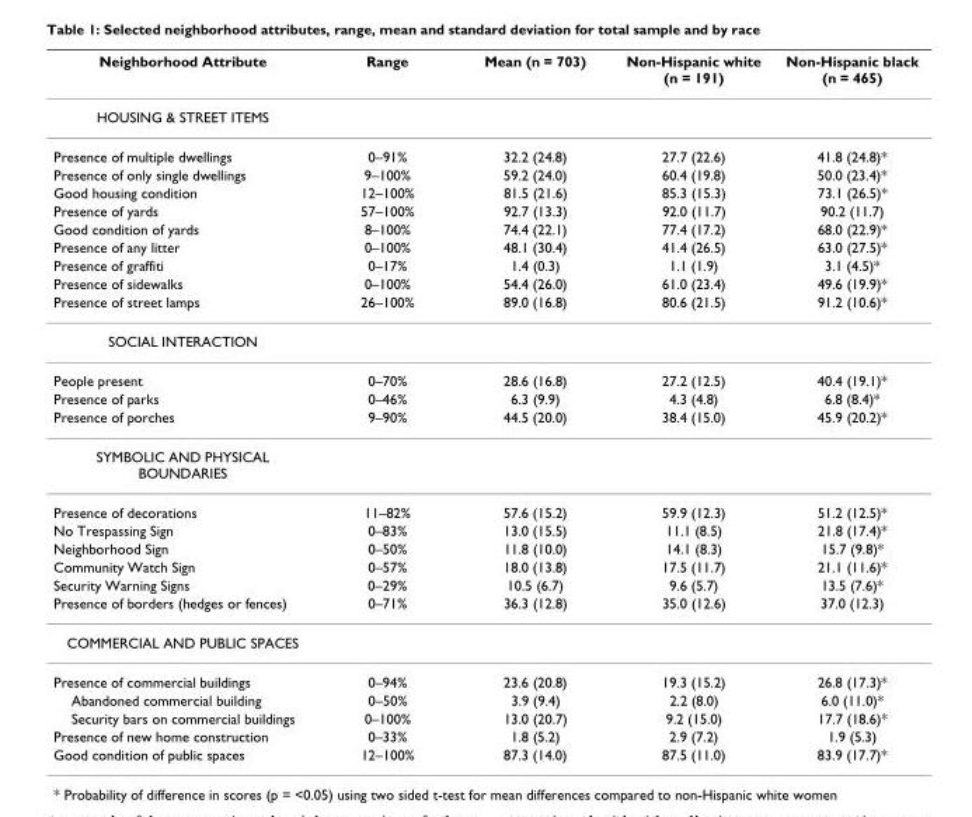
<table><thead><tr><td>Neighborhood Attribute</td><td>Range</td><td>Mean (n = 703)</td><td>Non-Hispanic white (n = 191)</td><td>Non-Hispanic black (n = 465)</td></tr></thead><tbody><tr><td colspan="5">HOUSING &amp; STREET ITEMS</td></tr><tr><td>Presence of multiple dwellings</td><td>0–91%</td><td>32.2 (24.8)</td><td>27.7 (22.6)</td><td>41.8 (24.8)*</td></tr><tr><td>Presence of only single dwellings</td><td>9–100%</td><td>59.2 (24.0)</td><td>60.4 (19.8)</td><td>50.0 (23.4)*</td></tr><tr><td>Good housing condition</td><td>12–100%</td><td>81.5 (21.6)</td><td>85.3 (15.3)</td><td>73.1 (26.5)*</td></tr><tr><td>Presence of yards</td><td>57–100%</td><td>92.7 (13.3)</td><td>92.0 (11.7)</td><td>90.2 (11.7)</td></tr><tr><td>Good condition of yards</td><td>8–100%</td><td>74.4 (22.1)</td><td>77.4 (17.2)</td><td>68.0 (22.9)*</td></tr><tr><td>Presence of any litter</td><td>0–100%</td><td>48.1 (30.4)</td><td>41.4 (26.5)</td><td>63.0 (27.5)*</td></tr><tr><td>Presence of graffiti</td><td>0–17%</td><td>1.4 (0.3)</td><td>1.1 (1.9)</td><td>3.1 (4.5)*</td></tr><tr><td>Presence of sidewalks</td><td>0–100%</td><td>54.4 (26.0)</td><td>61.0 (23.4)</td><td>49.6 (19.9)*</td></tr><tr><td>Presence of street lamps</td><td>26–100%</td><td>89.0 (16.8)</td><td>80.6 (21.5)</td><td>91.2 (10.6)*</td></tr><tr><td colspan="5">SOCIAL INTERACTION</td></tr><tr><td>People present</td><td>0–70%</td><td>28.6 (16.8)</td><td>27.2 (12.5)</td><td>40.4 (19.1)*</td></tr><tr><td>Presence of parks</td><td>0–46%</td><td>6.3 (9.9)</td><td>4.3 (4.8)</td><td>6.8 (8.4)*</td></tr><tr><td>Presence of porches</td><td>9–90%</td><td>44.5 (20.0)</td><td>38.4 (15.0)</td><td>45.9 (20.2)*</td></tr><tr><td colspan="5">SYMBOLIC AND PHYSICAL BOUNDARIES</td></tr><tr><td>Presence of decorations</td><td>11–82%</td><td>57.6 (15.2)</td><td>59.9 (12.3)</td><td>51.2 (12.5)*</td></tr><tr><td>No Trespassing Sign</td><td>0–83%</td><td>13.0 (15.5)</td><td>11.1 (8.5)</td><td>21.8 (17.4)*</td></tr><tr><td>Neighborhood Sign</td><td>0–50%</td><td>11.8 (10.0)</td><td>14.1 (8.3)</td><td>15.7 (9.8)*</td></tr><tr><td>Community Watch Sign</td><td>0–57%</td><td>18.0 (13.8)</td><td>17.5 (11.7)</td><td>21.1 (11.6)*</td></tr><tr><td>Security Warning Signs</td><td>0–29%</td><td>10.5 (6.7)</td><td>9.6 (5.7)</td><td>13.5 (7.6)*</td></tr><tr><td>Presence of borders (hedges or fences)</td><td>0–71%</td><td>36.3 (12.8)</td><td>35.0 (12.6)</td><td>37.0 (12.3)</td></tr><tr><td colspan="5">COMMERCIAL AND PUBLIC SPACES</td></tr><tr><td>Presence of commercial buildings</td><td>0–94%</td><td>23.6 (20.8)</td><td>19.3 (15.2)</td><td>26.8 (17.3)*</td></tr><tr><td>Abandoned commercial building</td><td>0–50%</td><td>3.9 (9.4)</td><td>2.2 (8.0)</td><td>6.0 (11.0)*</td></tr><tr><td>Security bars on commercial buildings</td><td>0–100%</td><td>13.0 (20.7)</td><td>9.2 (15.0)</td><td>17.7 (18.6)*</td></tr><tr><td>Presence of new home construction</td><td>0–33%</td><td>1.8 (5.2)</td><td>2.9 (7.2)</td><td>1.9 (5.3)</td></tr><tr><td>Good condition of public spaces</td><td>12–100%</td><td>87.3 (14.0)</td><td>87.5 (11.0)</td><td>83.9 (17.7)*</td></tr></tbody></table>